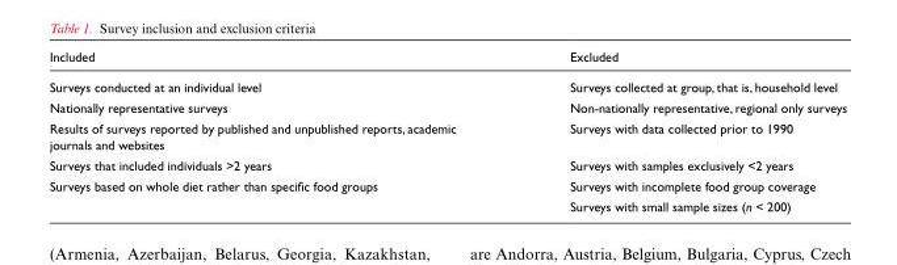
<table><thead><tr><td>Included</td><td>Excluded</td></tr></thead><tbody><tr><td>Surveys conducted at an individual level</td><td>Surveys collected at group, that is, household level</td></tr><tr><td>Nationally representative surveys</td><td>Non-nationally representative, regional only surveys</td></tr><tr><td>Results of surveys reported by published and unpublished reports, academic journals and websites</td><td>Surveys with data collected prior to 1990</td></tr><tr><td>Surveys that included individuals &gt;2 years</td><td>Surveys with samples exclusively &lt;2 years</td></tr><tr><td rowspan="2">Surveys based on whole diet rather than specific food groups</td><td>Surveys with incomplete food group coverage</td></tr><tr><td>Surveys with small sample sizes (n &lt; 200)</td></tr></tbody></table>